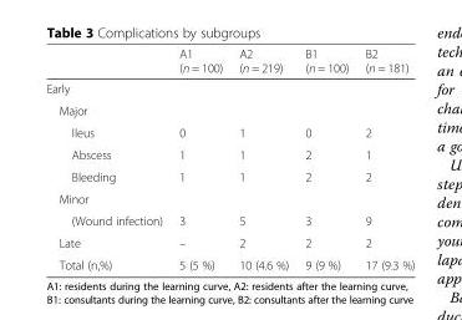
<table><thead><tr><td></td><td>A1 (n = 100)</td><td>A2 (n = 219)</td><td>B1 (n = 100)</td><td>B2 (n = 181)</td></tr></thead><tbody><tr><td colspan="5">Early</td></tr><tr><td colspan="5">Major</td></tr><tr><td>Ileus</td><td>0</td><td>1</td><td>0</td><td>2</td></tr><tr><td>Abscess</td><td>1</td><td>1</td><td>2</td><td>1</td></tr><tr><td>Bleeding</td><td>1</td><td>1</td><td>2</td><td>2</td></tr><tr><td colspan="5">Minor</td></tr><tr><td>(Wound infection)</td><td>3</td><td>5</td><td>3</td><td>9</td></tr><tr><td>Late</td><td>–</td><td>2</td><td>2</td><td>2</td></tr><tr><td>Total (n,%)</td><td>5 (5 %)</td><td>10 (4.6 %)</td><td>9 (9 %)</td><td>17 (9.3 %)</td></tr></tbody></table>